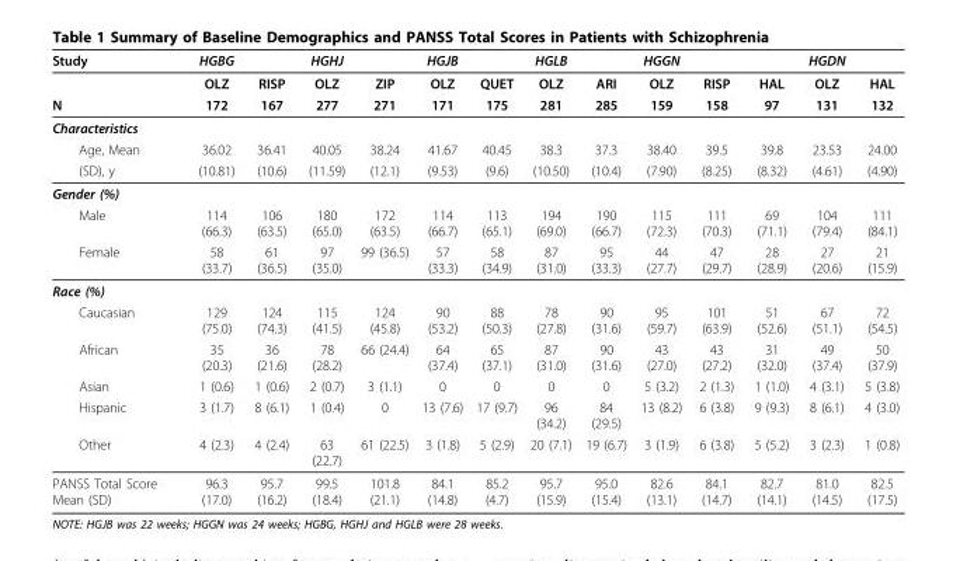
<table><thead><tr><td>Study</td><td>HGBG</td><td></td><td>HGHJ</td><td></td><td>HGJB</td><td></td><td>HGLB</td><td></td><td>HGGN</td><td></td><td></td><td>HGDN</td><td></td></tr></thead><tbody><tr><td></td><td>OLZ</td><td>RISP</td><td>OLZ</td><td>ZIP</td><td>OLZ</td><td>QUET</td><td>OLZ</td><td>ARI</td><td>OLZ</td><td>RISP</td><td>HAL</td><td>OLZ</td><td>HAL</td></tr><tr><td>N</td><td>172</td><td>167</td><td>277</td><td>271</td><td>171</td><td>175</td><td>281</td><td>285</td><td>159</td><td>158</td><td>97</td><td>131</td><td>132</td></tr><tr><td colspan="14">Characteristics</td></tr><tr><td>Age, Mean</td><td>36.02</td><td>36.41</td><td>40.05</td><td>38.24</td><td>41.67</td><td>40.45</td><td>38.3</td><td>37.3</td><td>38.40</td><td>39.5</td><td>39.8</td><td>23.53</td><td>24.00</td></tr><tr><td>(SD), y</td><td>(10.81)</td><td>(10.6)</td><td>(11.59)</td><td>(12.1)</td><td>(9.53)</td><td>(9.6)</td><td>(10.50)</td><td>(10.4)</td><td>(7.90)</td><td>(8.25)</td><td>(8.32)</td><td>(4.61)</td><td>(4.90)</td></tr><tr><td colspan="14">Gender (%)</td></tr><tr><td>Male</td><td>114 (66.3)</td><td>106 (63.5)</td><td>180 (65.0)</td><td>172 (63.5)</td><td>114 (66.7)</td><td>113 (65.1)</td><td>194 (69.0)</td><td>190 (66.7)</td><td>115 (72.3)</td><td>111 (70.3)</td><td>69 (71.1)</td><td>104 (79.4)</td><td>111 (84.1)</td></tr><tr><td>Female</td><td>58 (33.7)</td><td>61 (36.5)</td><td>97 (35.0)</td><td>99 (36.5)</td><td>57 (33.3)</td><td>58 (34.9)</td><td>87 (31.0)</td><td>95 (33.3)</td><td>44 (27.7)</td><td>47 (29.7)</td><td>28 (28.9)</td><td>27 (20.6)</td><td>21 (15.9)</td></tr><tr><td colspan="14">Race (%)</td></tr><tr><td>Caucasian</td><td>129 (75.0)</td><td>124 (74.3)</td><td>115 (41.5)</td><td>124 (45.8)</td><td>90 (53.2)</td><td>88 (50.3)</td><td>78 (27.8)</td><td>90 (31.6)</td><td>95 (59.7)</td><td>101 (63.9)</td><td>51 (52.6)</td><td>67 (51.1)</td><td>72 (54.5)</td></tr><tr><td>African</td><td>35 (20.3)</td><td>36 (21.6)</td><td>78 (28.2)</td><td>66 (24.4)</td><td>64 (37.4)</td><td>65 (37.1)</td><td>87 (31.0)</td><td>90 (31.6)</td><td>43 (27.0)</td><td>43 (27.2)</td><td>31 (32.0)</td><td>49 (37.4)</td><td>50 (37.9)</td></tr><tr><td>Asian</td><td>1 (0.6)</td><td>1 (0.6)</td><td>2 (0.7)</td><td>3 (1.1)</td><td>0</td><td>0</td><td>0</td><td>0</td><td>5 (3.2)</td><td>2 (1.3)</td><td>1 (1.0)</td><td>4 (3.1)</td><td>5 (3.8)</td></tr><tr><td>Hispanic</td><td>3 (1.7)</td><td>8 (6.1)</td><td>1 (0.4)</td><td>0</td><td>13 (7.6)</td><td>17 (9.7)</td><td>96 (34.2)</td><td>84 (29.5)</td><td>13 (8.2)</td><td>6 (3.8)</td><td>9 (9.3)</td><td>8 (6.1)</td><td>4 (3.0)</td></tr><tr><td>Other</td><td>4 (2.3)</td><td>4 (2.4)</td><td>63 (22.7)</td><td>61 (22.5)</td><td>3 (1.8)</td><td>5 (2.9)</td><td>20 (7.1)</td><td>19 (6.7)</td><td>3 (1.9)</td><td>6 (3.8)</td><td>5 (5.2)</td><td>3 (2.3)</td><td>1 (0.8)</td></tr><tr><td>PANSS Total Score Mean (SD)</td><td>96.3 (17.0)</td><td>95.7 (16.2)</td><td>99.5 (18.4)</td><td>101.8 (21.1)</td><td>84.1 (14.8)</td><td>85.2 (4.7)</td><td>95.7 (15.9)</td><td>95.0 (15.4)</td><td>82.6 (13.1)</td><td>84.1 (14.7)</td><td>82.7 (14.1)</td><td>81.0 (14.5)</td><td>82.5 (17.5)</td></tr></tbody></table>